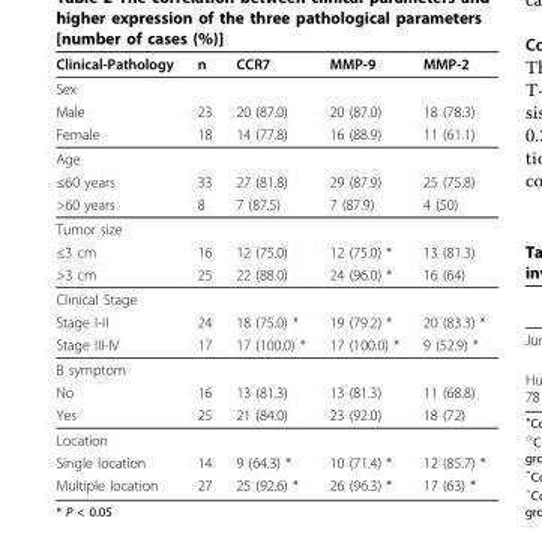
<table><thead><tr><td>Clinical-Pathology</td><td>n</td><td>CCR7</td><td>MMP-9</td><td>MMP-2</td></tr></thead><tbody><tr><td colspan="5">Sex</td></tr><tr><td>Male</td><td>23</td><td>20 (87.0)</td><td>20 (87.0)</td><td>18 (78.3)</td></tr><tr><td>Female</td><td>18</td><td>14 (77.8)</td><td>16 (88.9)</td><td>11 (61.1)</td></tr><tr><td colspan="5">Age</td></tr><tr><td>≤60 years</td><td>33</td><td>27 (81.8)</td><td>29 (87.9)</td><td>25 (75.8)</td></tr><tr><td>&gt;60 years</td><td>8</td><td>7 (87.5)</td><td>7 (87.9)</td><td>4 (50)</td></tr><tr><td colspan="5">Tumor size</td></tr><tr><td>≤3 cm</td><td>16</td><td>12 (75.0)</td><td>12 (75.0) *</td><td>13 (81.3)</td></tr><tr><td>&gt;3 cm</td><td>25</td><td>22 (88.0)</td><td>24 (96.0) *</td><td>16 (64)</td></tr><tr><td colspan="5">Clinical Stage</td></tr><tr><td>Stage I-II</td><td>24</td><td>18 (75.0) *</td><td>19 (79.2) *</td><td>20 (83.3) *</td></tr><tr><td>Stage III-IV</td><td>17</td><td>17 (100.0) *</td><td>17 (100.0) *</td><td>9 (52.9) *</td></tr><tr><td colspan="5">B symptom</td></tr><tr><td>No</td><td>16</td><td>13 (81.3)</td><td>13 (81.3)</td><td>11 (68.8)</td></tr><tr><td>Yes</td><td>25</td><td>21 (84.0)</td><td>23 (92.0)</td><td>18 (72)</td></tr><tr><td colspan="5">Location</td></tr><tr><td>Single location</td><td>14</td><td>9 (64.3) *</td><td>10 (71.4) *</td><td>12 (85.7) *</td></tr><tr><td>Multiple location</td><td>27</td><td>25 (92.6) *</td><td>26 (96.3) *</td><td>17 (63) *</td></tr></tbody></table>